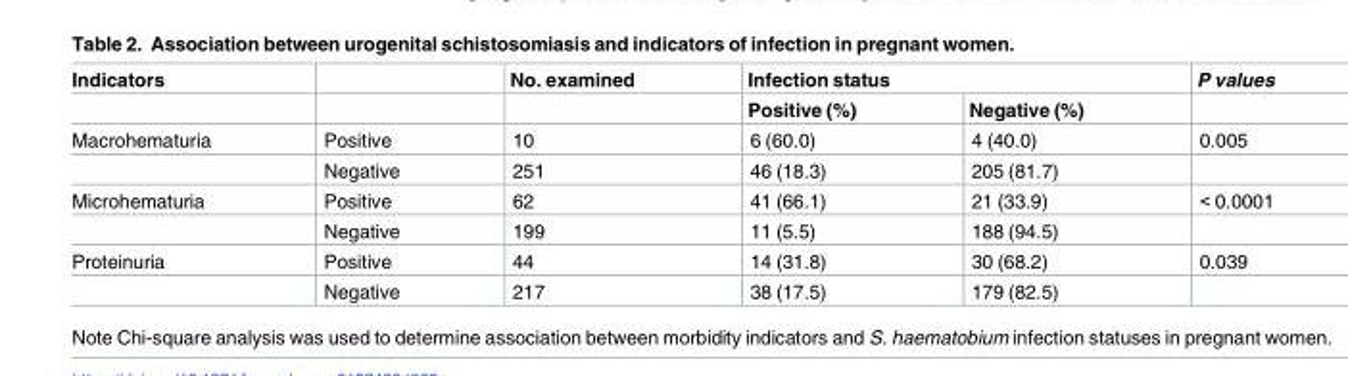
<table><thead><tr><td rowspan="2">Indicators</td><td rowspan="2"></td><td rowspan="2">No. examined</td><td colspan="2">Infection status</td><td rowspan="2">P values</td></tr><tr><td>Positive (%)</td><td>Negative (%)</td></tr></thead><tbody><tr><td rowspan="2">Macrohematuria</td><td>Positive</td><td>10</td><td>6 (60.0)</td><td>4 (40.0)</td><td>0.005</td></tr><tr><td>Negative</td><td>251</td><td>46 (18.3)</td><td>205 (81.7)</td><td></td></tr><tr><td rowspan="2">Microhematuria</td><td>Positive</td><td>62</td><td>41 (66.1)</td><td>21 (33.9)</td><td>&lt; 0.0001</td></tr><tr><td>Negative</td><td>199</td><td>11 (5.5)</td><td>188 (94.5)</td><td></td></tr><tr><td rowspan="2">Proteinuria</td><td>Positive</td><td>44</td><td>14 (31.8)</td><td>30 (68.2)</td><td>0.039</td></tr><tr><td>Negative</td><td>217</td><td>38 (17.5)</td><td>179 (82.5)</td><td></td></tr></tbody></table>